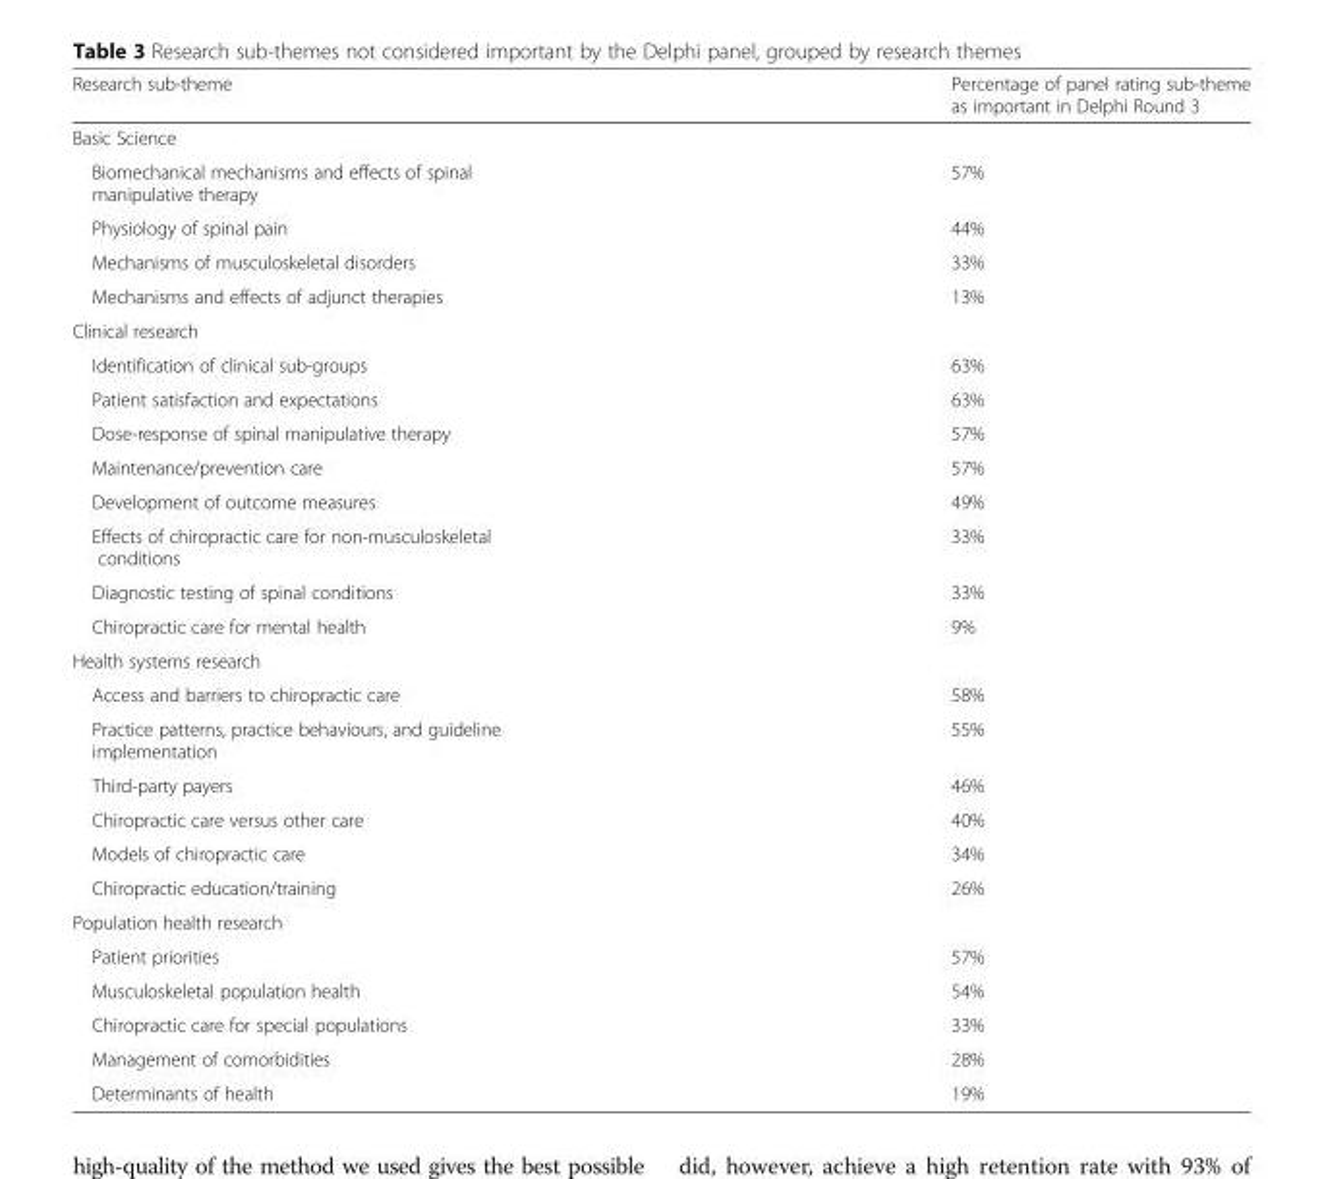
<table><thead><tr><td>Research sub-theme</td><td>Percentage of panel rating sub-theme as important in Delphi Round 3</td></tr></thead><tbody><tr><td colspan="2">Basic Science</td></tr><tr><td>Biomechanical mechanisms and effects of spinal manipulative therapy</td><td>57%</td></tr><tr><td>Physiology of spinal pain</td><td>44%</td></tr><tr><td>Mechanisms of musculoskeletal disorders</td><td>33%</td></tr><tr><td>Mechanisms and effects of adjunct therapies</td><td>13%</td></tr><tr><td colspan="2">Clinical research</td></tr><tr><td>Identification of clinical sub-groups</td><td>63%</td></tr><tr><td>Patient satisfaction and expectations</td><td>63%</td></tr><tr><td>Dose-response of spinal manipulative therapy</td><td>57%</td></tr><tr><td>Maintenance/prevention care</td><td>57%</td></tr><tr><td>Development of outcome measures</td><td>49%</td></tr><tr><td>Effects of chiropractic care for non-musculoskeletal conditions</td><td>33%</td></tr><tr><td>Diagnostic testing of spinal conditions</td><td>33%</td></tr><tr><td>Chiropractic care for mental health</td><td>9%</td></tr><tr><td colspan="2">Health systems research</td></tr><tr><td>Access and barriers to chiropractic care</td><td>58%</td></tr><tr><td>Practice patterns, practice behaviours, and guideline implementation</td><td>55%</td></tr><tr><td>Third-party payers</td><td>46%</td></tr><tr><td>Chiropractic care versus other care</td><td>40%</td></tr><tr><td>Models of chiropractic care</td><td>34%</td></tr><tr><td>Chiropractic education/training</td><td>26%</td></tr><tr><td colspan="2">Population health research</td></tr><tr><td>Patient priorities</td><td>57%</td></tr><tr><td>Musculoskeletal population health</td><td>54%</td></tr><tr><td>Chiropractic care for special populations</td><td>33%</td></tr><tr><td>Management of comorbidities</td><td>28%</td></tr><tr><td>Determinants of health</td><td>19%</td></tr></tbody></table>